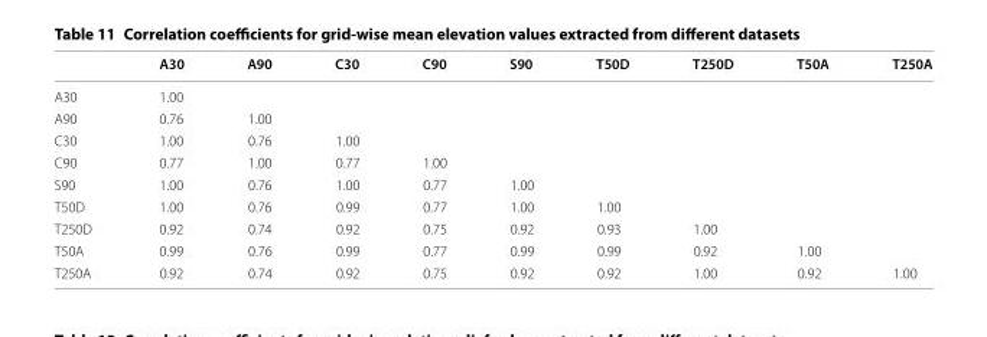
<table><thead><tr><td></td><td>A30</td><td>A90</td><td>C30</td><td>C90</td><td>S90</td><td>T50D</td><td>T250D</td><td>T50A</td><td>T250A</td></tr></thead><tbody><tr><td>A30</td><td>1.00</td><td></td><td></td><td></td><td></td><td></td><td></td><td></td><td></td></tr><tr><td>A90</td><td>0.76</td><td>1.00</td><td></td><td></td><td></td><td></td><td></td><td></td><td></td></tr><tr><td>C30</td><td>1.00</td><td>0.76</td><td>1.00</td><td></td><td></td><td></td><td></td><td></td><td></td></tr><tr><td>C90</td><td>0.77</td><td>1.00</td><td>0.77</td><td>1.00</td><td></td><td></td><td></td><td></td><td></td></tr><tr><td>S90</td><td>1.00</td><td>0.76</td><td>1.00</td><td>0.77</td><td>1.00</td><td></td><td></td><td></td><td></td></tr><tr><td>T50D</td><td>1.00</td><td>0.76</td><td>0.99</td><td>0.77</td><td>1.00</td><td>1.00</td><td></td><td></td><td></td></tr><tr><td>T250D</td><td>0.92</td><td>0.74</td><td>0.92</td><td>0.75</td><td>0.92</td><td>0.93</td><td>1.00</td><td></td><td></td></tr><tr><td>T50A</td><td>0.99</td><td>0.76</td><td>0.99</td><td>0.77</td><td>0.99</td><td>0.99</td><td>0.92</td><td>1.00</td><td></td></tr><tr><td>T250A</td><td>0.92</td><td>0.74</td><td>0.92</td><td>0.75</td><td>0.92</td><td>0.92</td><td>1.00</td><td>0.92</td><td>1.00</td></tr></tbody></table>